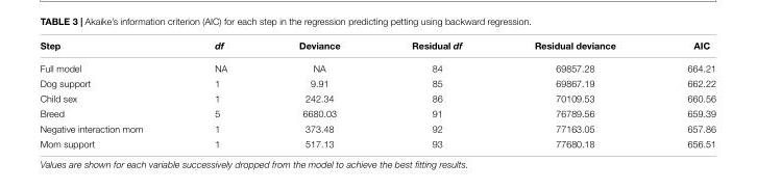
<table><thead><tr><td>Step</td><td>df</td><td>Deviance</td><td>Residual df</td><td>Residual deviance</td><td>AIC</td></tr></thead><tbody><tr><td>Full model</td><td>NA</td><td>NA</td><td>84</td><td>69857.28</td><td>664.21</td></tr><tr><td>Dog support</td><td>1</td><td>9.91</td><td>85</td><td>69867.19</td><td>662.22</td></tr><tr><td>Child sex</td><td>1</td><td>242.34</td><td>86</td><td>70109.53</td><td>660.56</td></tr><tr><td>Breed</td><td>5</td><td>6680.03</td><td>91</td><td>76789.56</td><td>659.39</td></tr><tr><td>Negative interaction mom</td><td>1</td><td>373.48</td><td>92</td><td>77163.05</td><td>657.86</td></tr><tr><td>Mom support</td><td>1</td><td>517.13</td><td>93</td><td>77680.18</td><td>656.51</td></tr></tbody></table>